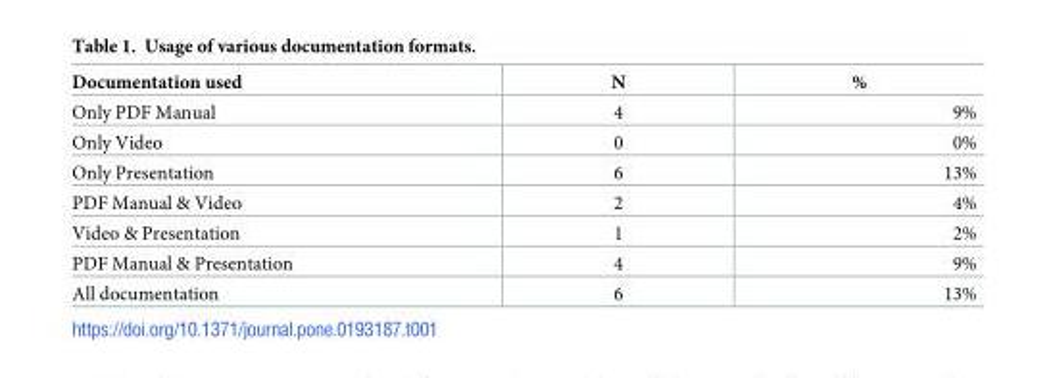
<table><thead><tr><td>Documentation used</td><td>N</td><td>%</td></tr></thead><tbody><tr><td>Only PDF Manual</td><td>4</td><td>9%</td></tr><tr><td>Only Video</td><td>0</td><td>0%</td></tr><tr><td>Only Presentation</td><td>6</td><td>13%</td></tr><tr><td>PDF Manual &amp; Video</td><td>2</td><td>4%</td></tr><tr><td>Video &amp; Presentation</td><td>1</td><td>2%</td></tr><tr><td>PDF Manual &amp; Presentation</td><td>4</td><td>9%</td></tr><tr><td>All documentation</td><td>6</td><td>13%</td></tr></tbody></table>